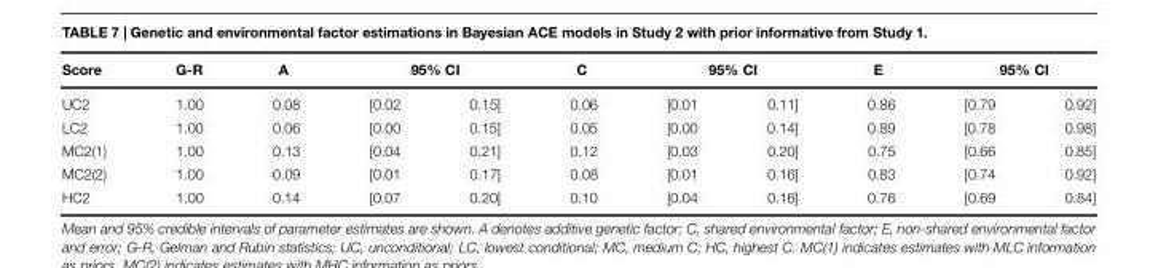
<table><thead><tr><td rowspan="2">Score UC2</td><td rowspan="2">G-R 1.00</td><td rowspan="2">A 0.08</td><td colspan="2">95% CI</td><td rowspan="2">C 0.06</td><td colspan="2">95% CI</td><td rowspan="2">E 0.86</td><td colspan="2">95% CI</td></tr><tr><td>[0.02</td><td>0.15]</td><td>[0.01</td><td>0.11]</td><td>[0.79</td><td>0.92]</td></tr></thead><tbody><tr><td>LC2</td><td>1.00</td><td>0.06</td><td>[0.00</td><td>0.15]</td><td>0.05</td><td>[0.00</td><td>0.14]</td><td>0.89</td><td>[0.78</td><td>0.98]</td></tr><tr><td>MC2(1)</td><td>1.00</td><td>0.13</td><td>[0.04</td><td>0.21]</td><td>0.12</td><td>[0.03</td><td>0.20]</td><td>0.75</td><td>[0.66</td><td>0.85]</td></tr><tr><td>MC2(2)</td><td>1.00</td><td>0.09</td><td>[0.01</td><td>0.17]</td><td>0.08</td><td>[0.01</td><td>0.16]</td><td>0.83</td><td>[0.74</td><td>0.92]</td></tr><tr><td>HC2</td><td>1.00</td><td>0.14</td><td>[0.07</td><td>0.20]</td><td>0.10</td><td>[0.04</td><td>0.16]</td><td>0.76</td><td>[0.69</td><td>0.84]</td></tr></tbody></table>